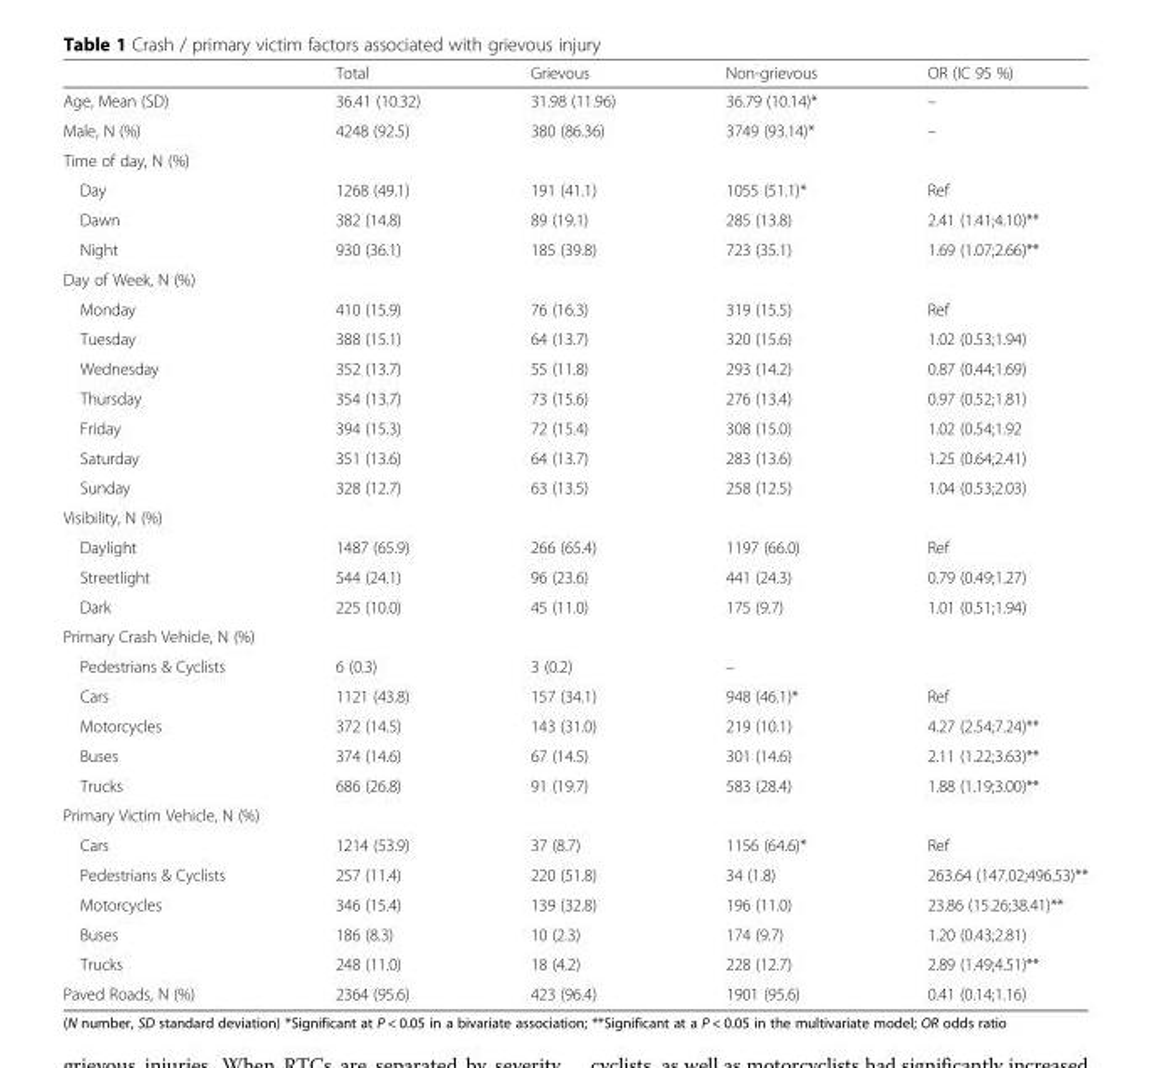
<table><thead><tr><td></td><td>Total</td><td>Grievous</td><td>Non-grievous</td><td>OR (IC 95 %)</td></tr></thead><tbody><tr><td>Age, Mean (SD)</td><td>36.41 (10.32)</td><td>31.98 (11.96)</td><td>36.79 (10.14)*</td><td>–</td></tr><tr><td>Male, N (%)</td><td>4248 (92.5)</td><td>380 (86.36)</td><td>3749 (93.14)*</td><td>–</td></tr><tr><td colspan="5">Time of day, N (%)</td></tr><tr><td>Day</td><td>1268 (49.1)</td><td>191 (41.1)</td><td>1055 (51.1)*</td><td>Ref</td></tr><tr><td>Dawn</td><td>382 (14.8)</td><td>89 (19.1)</td><td>285 (13.8)</td><td>2.41 (1.41;4.10)**</td></tr><tr><td>Night</td><td>930 (36.1)</td><td>185 (39.8)</td><td>723 (35.1)</td><td>1.69 (1.07;2.66)**</td></tr><tr><td colspan="5">Day of Week, N (%)</td></tr><tr><td>Monday</td><td>410 (15.9)</td><td>76 (16.3)</td><td>319 (15.5)</td><td>Ref</td></tr><tr><td>Tuesday</td><td>388 (15.1)</td><td>64 (13.7)</td><td>320 (15.6)</td><td>1.02 (0.53;1.94)</td></tr><tr><td>Wednesday</td><td>352 (13.7)</td><td>55 (11.8)</td><td>293 (14.2)</td><td>0.87 (0.44;1.69)</td></tr><tr><td>Thursday</td><td>354 (13.7)</td><td>73 (15.6)</td><td>276 (13.4)</td><td>0.97 (0.52;1.81)</td></tr><tr><td>Friday</td><td>394 (15.3)</td><td>72 (15.4)</td><td>308 (15.0)</td><td>1.02 (0.54;1.92</td></tr><tr><td>Saturday</td><td>351 (13.6)</td><td>64 (13.7)</td><td>283 (13.6)</td><td>1.25 (0.64;2.41)</td></tr><tr><td>Sunday</td><td>328 (12.7)</td><td>63 (13.5)</td><td>258 (12.5)</td><td>1.04 (0.53;2.03)</td></tr><tr><td colspan="5">Visibility, N (%)</td></tr><tr><td>Daylight</td><td>1487 (65.9)</td><td>266 (65.4)</td><td>1197 (66.0)</td><td>Ref</td></tr><tr><td>Streetlight</td><td>544 (24.1)</td><td>96 (23.6)</td><td>441 (24.3)</td><td>0.79 (0.49;1.27)</td></tr><tr><td>Dark</td><td>225 (10.0)</td><td>45 (11.0)</td><td>175 (9.7)</td><td>1.01 (0.51;1.94)</td></tr><tr><td colspan="5">Primary Crash Vehicle, N (%)</td></tr><tr><td>Pedestrians &amp; Cyclists</td><td>6 (0.3)</td><td>3 (0.2)</td><td>–</td><td></td></tr><tr><td>Cars</td><td>1121 (43.8)</td><td>157 (34.1)</td><td>948 (46.1)*</td><td>Ref</td></tr><tr><td>Motorcycles</td><td>372 (14.5)</td><td>143 (31.0)</td><td>219 (10.1)</td><td>4.27 (2.54;7.24)**</td></tr><tr><td>Buses</td><td>374 (14.6)</td><td>67 (14.5)</td><td>301 (14.6)</td><td>2.11 (1.22;3.63)**</td></tr><tr><td>Trucks</td><td>686 (26.8)</td><td>91 (19.7)</td><td>583 (28.4)</td><td>1.88 (1.19;3.00)**</td></tr><tr><td colspan="5">Primary Victim Vehicle, N (%)</td></tr><tr><td>Cars</td><td>1214 (53.9)</td><td>37 (8.7)</td><td>1156 (64.6)*</td><td>Ref</td></tr><tr><td>Pedestrians &amp; Cyclists</td><td>257 (11.4)</td><td>220 (51.8)</td><td>34 (1.8)</td><td>263.64 (147.02;496.53)**</td></tr><tr><td>Motorcycles</td><td>346 (15.4)</td><td>139 (32.8)</td><td>196 (11.0)</td><td>23.86 (15.26;38.41)**</td></tr><tr><td>Buses</td><td>186 (8.3)</td><td>10 (2.3)</td><td>174 (9.7)</td><td>1.20 (0.43;2.81)</td></tr><tr><td>Trucks</td><td>248 (11.0)</td><td>18 (4.2)</td><td>228 (12.7)</td><td>2.89 (1.49;4.51)**</td></tr><tr><td>Paved Roads, N (%)</td><td>2364 (95.6)</td><td>423 (96.4)</td><td>1901 (95.6)</td><td>0.41 (0.14;1.16)</td></tr></tbody></table>